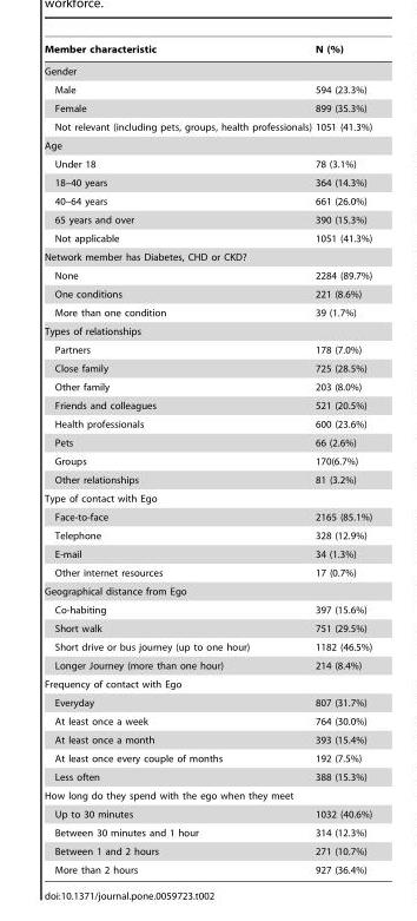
<table><thead><tr><td>Member characteristic</td><td>N (%)</td></tr></thead><tbody><tr><td colspan="2">Gender</td></tr><tr><td>Male</td><td>594 (23.3%)</td></tr><tr><td>Female</td><td>899 (35.3%)</td></tr><tr><td>Not relevant (including pets, groups, health professionals)</td><td>1051 (41.3%)</td></tr><tr><td colspan="2">Age</td></tr><tr><td>Under 18</td><td>78 (3.1%)</td></tr><tr><td>18–40 years</td><td>364 (14.3%)</td></tr><tr><td>40–64 years</td><td>661 (26.0%)</td></tr><tr><td>65 years and over</td><td>390 (15.3%)</td></tr><tr><td>Not applicable</td><td>1051 (41.3%)</td></tr><tr><td colspan="2">Network member has Diabetes, CHD or CKD?</td></tr><tr><td>None</td><td>2284 (89.7%)</td></tr><tr><td>One conditions</td><td>221 (8.6%)</td></tr><tr><td>More than one condition</td><td>39 (1.7%)</td></tr><tr><td colspan="2">Types of relationships</td></tr><tr><td>Partners</td><td>178 (7.0%)</td></tr><tr><td>Close family</td><td>725 (28.5%)</td></tr><tr><td>Other family</td><td>203 (8.0%)</td></tr><tr><td>Friends and colleagues</td><td>521 (20.5%)</td></tr><tr><td>Health professionals</td><td>600 (23.6%)</td></tr><tr><td>Pets</td><td>66 (2.6%)</td></tr><tr><td>Groups</td><td>170(6.7%)</td></tr><tr><td>Other relationships</td><td>81 (3.2%)</td></tr><tr><td colspan="2">Type of contact with Ego</td></tr><tr><td>Face-to-face</td><td>2165 (85.1%)</td></tr><tr><td>Telephone</td><td>328 (12.9%)</td></tr><tr><td>E-mail</td><td>34 (1.3%)</td></tr><tr><td>Other internet resources</td><td>17 (0.7%)</td></tr><tr><td colspan="2">Geographical distance from Ego</td></tr><tr><td>Co-habiting</td><td>397 (15.6%)</td></tr><tr><td>Short walk</td><td>751 (29.5%)</td></tr><tr><td>Short drive or bus journey (up to one hour)</td><td>1182 (46.5%)</td></tr><tr><td>Longer Journey (more than one hour)</td><td>214 (8.4%)</td></tr><tr><td colspan="2">Frequency of contact with Ego</td></tr><tr><td>Everyday</td><td>807 (31.7%)</td></tr><tr><td>At least once a week</td><td>764 (30.0%)</td></tr><tr><td>At least once a month</td><td>393 (15.4%)</td></tr><tr><td>At least once every couple of months</td><td>192 (7.5%)</td></tr><tr><td>Less often</td><td>388 (15.3%)</td></tr><tr><td colspan="2">How long do they spend with the ego when they meet</td></tr><tr><td>Up to 30 minutes</td><td>1032 (40.6%)</td></tr><tr><td>Between 30 minutes and 1 hour</td><td>314 (12.3%)</td></tr><tr><td>Between 1 and 2 hours</td><td>271 (10.7%)</td></tr><tr><td>More than 2 hours</td><td>927 (36.4%)</td></tr></tbody></table>